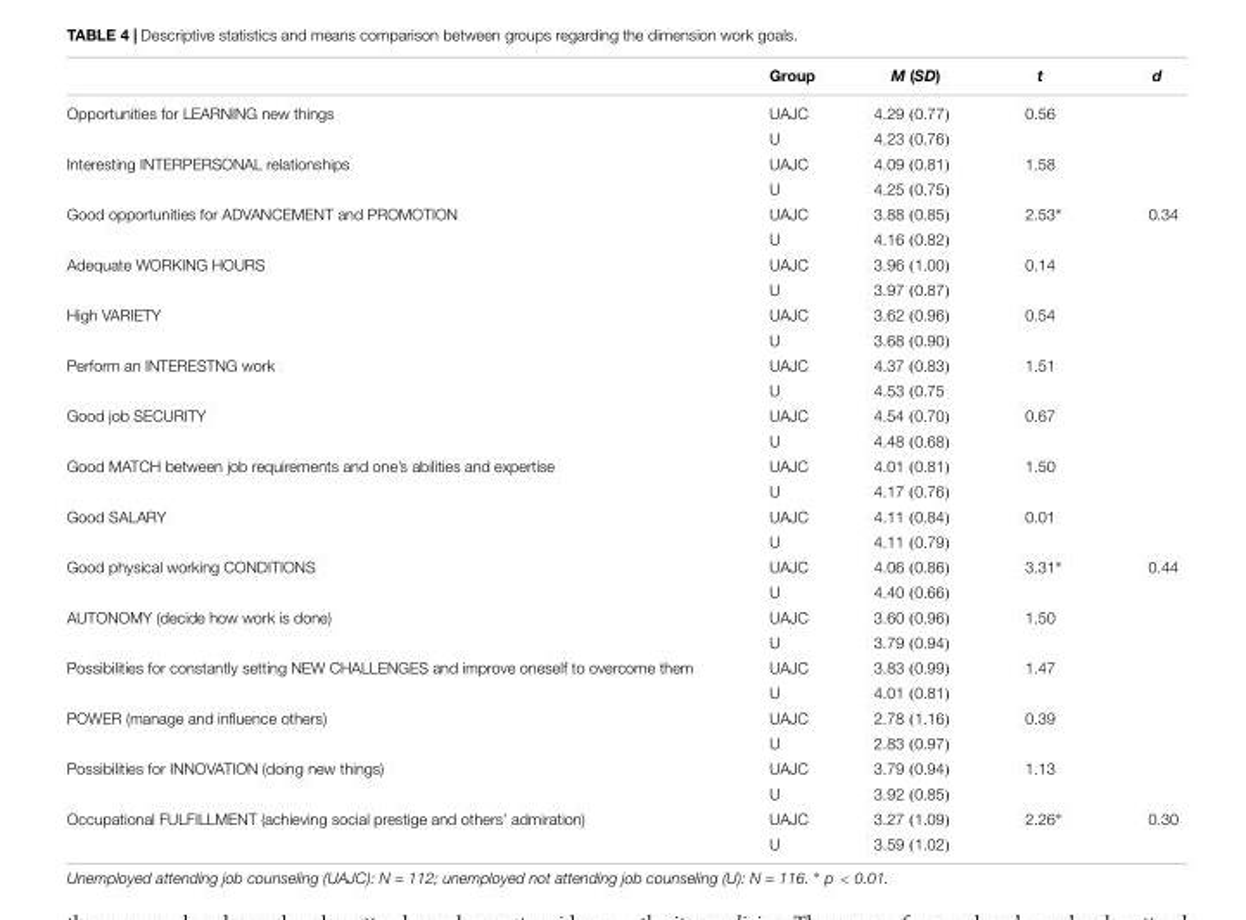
<table><thead><tr><td></td><td>Group</td><td>M (SD)</td><td>t</td><td>d</td></tr></thead><tbody><tr><td rowspan="2">Opportunities for LEARNING new things</td><td>UAJC</td><td>4.29 (0.77)</td><td>0.56</td><td></td></tr><tr><td>U</td><td>4.23 (0.76)</td><td></td><td></td></tr><tr><td rowspan="2">Interesting INTERPERSONAL relationships</td><td>UAJC</td><td>4.09 (0.81)</td><td>1.58</td><td></td></tr><tr><td>U</td><td>4.25 (0.75)</td><td></td><td></td></tr><tr><td rowspan="2">Good opportunities for ADVANCEMENT and PROMOTION</td><td>UAJC</td><td>3.88 (0.85)</td><td>2.53∗</td><td>0.34</td></tr><tr><td>U</td><td>4.16 (0.82)</td><td></td><td></td></tr><tr><td rowspan="2">Adequate WORKING HOURS</td><td>UAJC</td><td>3.96 (1.00)</td><td>0.14</td><td></td></tr><tr><td>U</td><td>3.97 (0.87)</td><td></td><td></td></tr><tr><td rowspan="2">High VARIETY</td><td>UAJC</td><td>3.62 (0.96)</td><td>0.54</td><td></td></tr><tr><td>U</td><td>3.68 (0.90)</td><td></td><td></td></tr><tr><td rowspan="2">Perform an INTERESTNG work</td><td>UAJC</td><td>4.37 (0.83)</td><td>1.51</td><td></td></tr><tr><td>U</td><td>4.53 (0.75</td><td></td><td></td></tr><tr><td rowspan="2">Good job SECURITY</td><td>UAJC</td><td>4.54 (0.70)</td><td>0.67</td><td></td></tr><tr><td>U</td><td>4.48 (0.68)</td><td></td><td></td></tr><tr><td rowspan="2">Good MATCH between job requirements and one’s abilities and expertise</td><td>UAJC</td><td>4.01 (0.81)</td><td>1.50</td><td></td></tr><tr><td>U</td><td>4.17 (0.76)</td><td></td><td></td></tr><tr><td rowspan="2">Good SALARY</td><td>UAJC</td><td>4.11 (0.84)</td><td>0.01</td><td></td></tr><tr><td>U</td><td>4.11 (0.79)</td><td></td><td></td></tr><tr><td rowspan="2">Good physical working CONDITIONS</td><td>UAJC</td><td>4.06 (0.86)</td><td>3.31∗</td><td>0.44</td></tr><tr><td>U</td><td>4.40 (0.66)</td><td></td><td></td></tr><tr><td rowspan="2">AUTONOMY (decide how work is done)</td><td>UAJC</td><td>3.60 (0.96)</td><td>1.50</td><td></td></tr><tr><td>U</td><td>3.79 (0.94)</td><td></td><td></td></tr><tr><td rowspan="2">Possibilities for constantly setting NEW CHALLENGES and improve oneself to overcome them</td><td>UAJC</td><td>3.83 (0.99)</td><td>1.47</td><td></td></tr><tr><td>U</td><td>4.01 (0.81)</td><td></td><td></td></tr><tr><td rowspan="2">POWER (manage and influence others)</td><td>UAJC</td><td>2.78 (1.16)</td><td>0.39</td><td></td></tr><tr><td>U</td><td>2.83 (0.97)</td><td></td><td></td></tr><tr><td rowspan="2">Possibilities for INNOVATION (doing new things)</td><td>UAJC</td><td>3.79 (0.94)</td><td>1.13</td><td></td></tr><tr><td>U</td><td>3.92 (0.85)</td><td></td><td></td></tr><tr><td rowspan="2">Occupational FULFILLMENT (achieving social prestige and others’ admiration)</td><td>UAJC</td><td>3.27 (1.09)</td><td>2.26∗</td><td>0.30</td></tr><tr><td>U</td><td>3.59 (1.02)</td><td></td><td></td></tr></tbody></table>